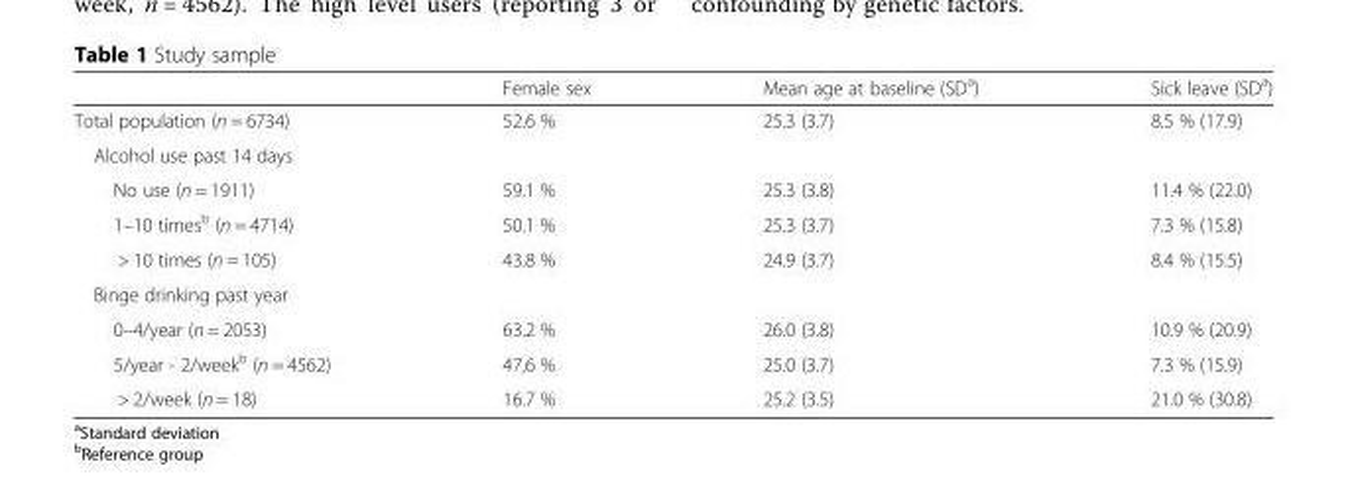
<table><thead><tr><td></td><td>Female sex</td><td>Mean age at baseline (SD<sup>a</sup>)</td><td>Sick leave (SD<sup>a</sup>)</td></tr></thead><tbody><tr><td>Total population (n = 6734)</td><td>52.6 %</td><td>25.3 (3.7)</td><td>8.5 % (17.9)</td></tr><tr><td colspan="4">Alcohol use past 14 days</td></tr><tr><td>No use (n = 1911)</td><td>59.1 %</td><td>25.3 (3.8)</td><td>11.4 % (22.0)</td></tr><tr><td>1–10 times<sup>b</sup> (n = 4714)</td><td>50.1 %</td><td>25.3 (3.7)</td><td>7.3 % (15.8)</td></tr><tr><td>&gt; 10 times (n = 105)</td><td>43.8 %</td><td>24.9 (3.7)</td><td>8.4 % (15.5)</td></tr><tr><td colspan="4">Binge drinking past year</td></tr><tr><td>0–4/year (n = 2053)</td><td>63.2 %</td><td>26.0 (3.8)</td><td>10.9 % (20.9)</td></tr><tr><td>5/year - 2/week<sup>b</sup> (n = 4562)</td><td>47,6 %</td><td>25.0 (3.7)</td><td>7.3 % (15.9)</td></tr><tr><td>&gt; 2/week (n = 18)</td><td>16.7 %</td><td>25.2 (3.5)</td><td>21.0 % (30.8)</td></tr></tbody></table>